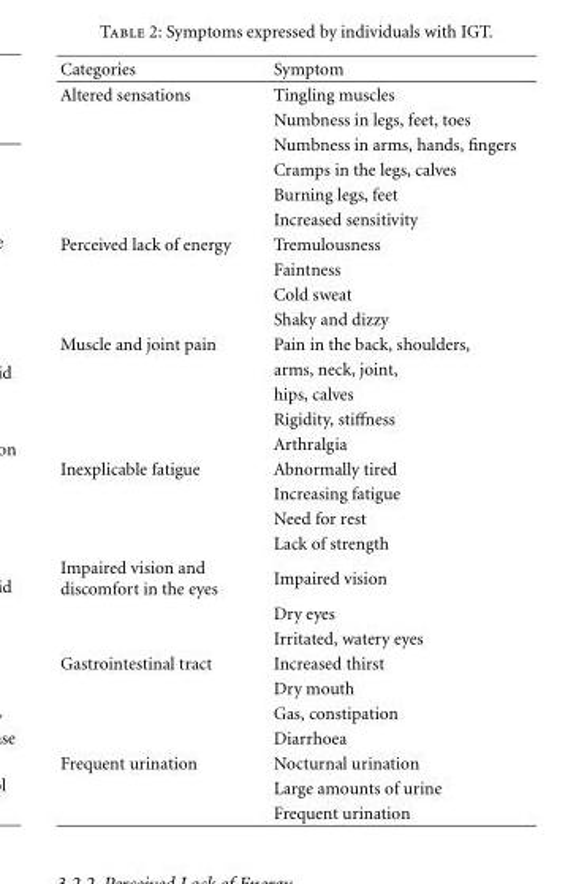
<table><thead><tr><td>Categories</td><td>Symptom</td></tr></thead><tbody><tr><td rowspan="6">Altered sensations</td><td>Tingling muscles</td></tr><tr><td>Numbness in legs, feet, toes</td></tr><tr><td>Numbness in arms, hands, fingers</td></tr><tr><td>Cramps in the legs, calves</td></tr><tr><td>Burning legs, feet</td></tr><tr><td>Increased sensitivity</td></tr><tr><td rowspan="4">Perceived lack of energy</td><td>Tremulousness</td></tr><tr><td>Faintness</td></tr><tr><td>Cold sweat</td></tr><tr><td>Shaky and dizzy</td></tr><tr><td rowspan="5">Muscle and joint pain</td><td>Pain in the back, shoulders,</td></tr><tr><td>arms, neck, joint,</td></tr><tr><td>hips, calves</td></tr><tr><td>Rigidity, stiffness</td></tr><tr><td>Arthralgia</td></tr><tr><td rowspan="4">Inexplicable fatigue</td><td>Abnormally tired</td></tr><tr><td>Increasing fatigue</td></tr><tr><td>Need for rest</td></tr><tr><td>Lack of strength</td></tr><tr><td rowspan="3">Impaired vision and discomfort in the eyes</td><td>Impaired vision</td></tr><tr><td>Dry eyes</td></tr><tr><td>Irritated, watery eyes</td></tr><tr><td rowspan="4">Gastrointestinal tract</td><td>Increased thirst</td></tr><tr><td>Dry mouth</td></tr><tr><td>Gas, constipation</td></tr><tr><td>Diarrhoea</td></tr><tr><td rowspan="3">Frequent urination</td><td>Nocturnal urination</td></tr><tr><td>Large amounts of urine</td></tr><tr><td>Frequent urination</td></tr></tbody></table>